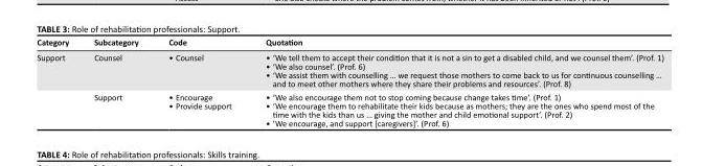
<table><thead><tr><td>Category</td><td>Subcategory</td><td>Code</td><td>Quotation</td></tr></thead><tbody><tr><td rowspan="2">Support</td><td>Counsel</td><td>• Counsel</td><td>• ‘We tell them to accept their condition that it is not a sin to get a disabled child, and we counsel them’. (Prof. 1) • ‘We also counsel’. (Prof. 6) • ‘We assist them with counselling … we request those mothers to come back to us for continuous counselling … and to meet other mothers where they share their problems and resources’. (Prof. 8)</td></tr><tr><td>Support</td><td>• Encourage • Provide support</td><td>• ‘We also encourage them not to stop coming because change takes time’. (Prof. 1) • ‘We encourage them to rehabilitate their kids because as mothers; they are the ones who spend most of the time with the kids than us … giving the mother and child emotional support’. (Prof. 2) • ’We encourage, and support [caregivers]’. (Prof. 6)</td></tr></tbody></table>